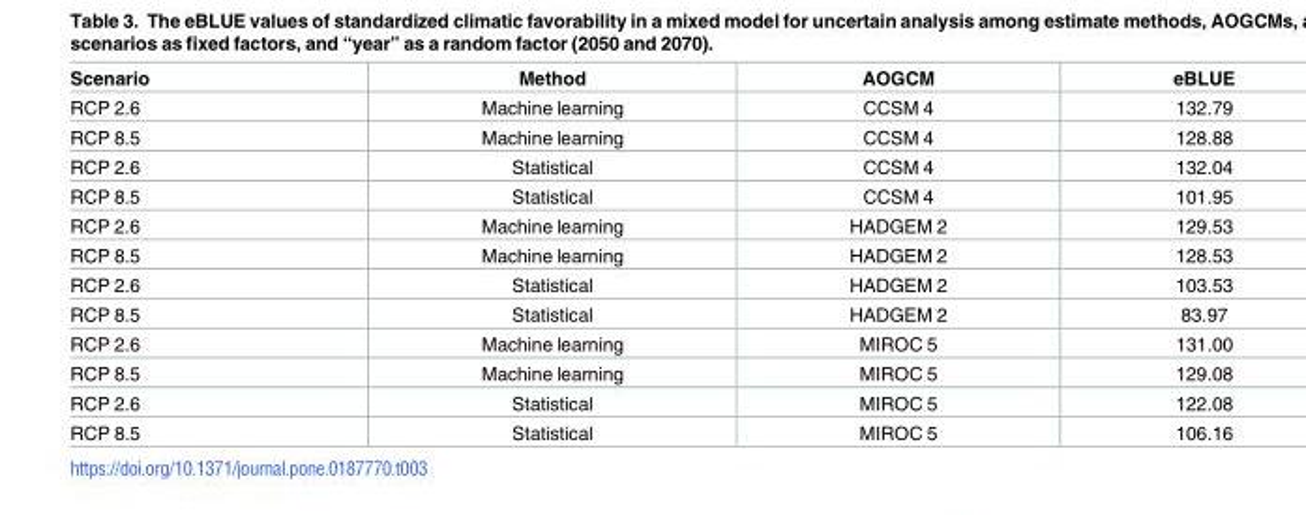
<table><thead><tr><td>Scenario</td><td>Method</td><td>AOGCM</td><td>eBLUE</td></tr></thead><tbody><tr><td>RCP 2.6</td><td>Machine learning</td><td>CCSM 4</td><td>132.79</td></tr><tr><td>RCP 8.5</td><td>Machine learning</td><td>CCSM 4</td><td>128.88</td></tr><tr><td>RCP 2.6</td><td>Statistical</td><td>CCSM 4</td><td>132.04</td></tr><tr><td>RCP 8.5</td><td>Statistical</td><td>CCSM 4</td><td>101.95</td></tr><tr><td>RCP 2.6</td><td>Machine learning</td><td>HADGEM 2</td><td>129.53</td></tr><tr><td>RCP 8.5</td><td>Machine learning</td><td>HADGEM 2</td><td>128.53</td></tr><tr><td>RCP 2.6</td><td>Statistical</td><td>HADGEM 2</td><td>103.53</td></tr><tr><td>RCP 8.5</td><td>Statistical</td><td>HADGEM 2</td><td>83.97</td></tr><tr><td>RCP 2.6</td><td>Machine learning</td><td>MIROC 5</td><td>131.00</td></tr><tr><td>RCP 8.5</td><td>Machine learning</td><td>MIROC 5</td><td>129.08</td></tr><tr><td>RCP 2.6</td><td>Statistical</td><td>MIROC 5</td><td>122.08</td></tr><tr><td>RCP 8.5</td><td>Statistical</td><td>MIROC 5</td><td>106.16</td></tr></tbody></table>